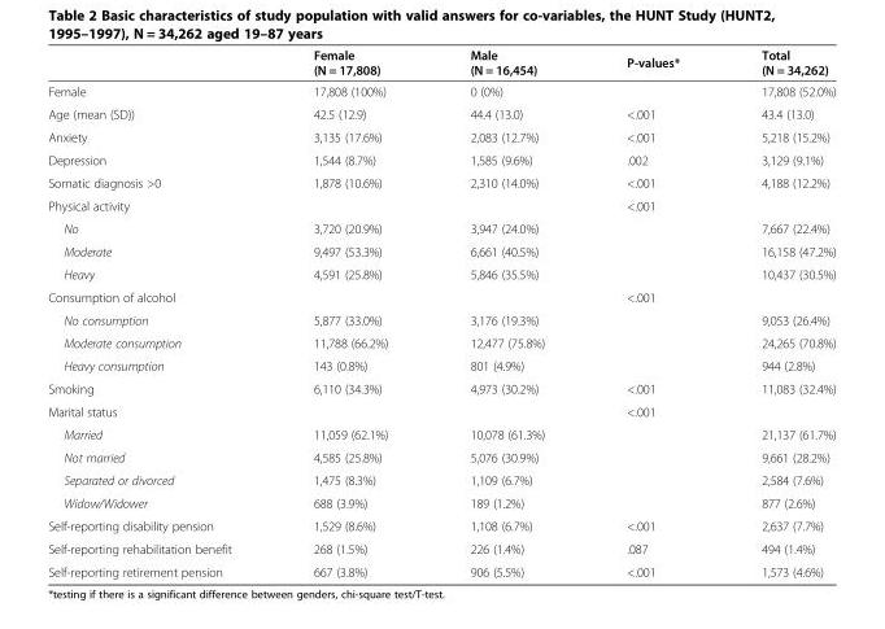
<table><thead><tr><td></td><td>Female (N = 17,808)</td><td>Male (N = 16,454)</td><td>P-values*</td><td>Total (N = 34,262)</td></tr></thead><tbody><tr><td>Female</td><td>17,808 (100%)</td><td>0 (0%)</td><td></td><td>17,808 (52.0%)</td></tr><tr><td>Age (mean (SD))</td><td>42.5 (12.9)</td><td>44.4 (13.0)</td><td>&lt;.001</td><td>43.4 (13.0)</td></tr><tr><td>Anxiety</td><td>3,135 (17.6%)</td><td>2,083 (12.7%)</td><td>&lt;.001</td><td>5,218 (15.2%)</td></tr><tr><td>Depression</td><td>1,544 (8.7%)</td><td>1,585 (9.6%)</td><td>.002</td><td>3,129 (9.1%)</td></tr><tr><td>Somatic diagnosis &gt;0</td><td>1,878 (10.6%)</td><td>2,310 (14.0%)</td><td>&lt;.001</td><td>4,188 (12.2%)</td></tr><tr><td>Physical activity</td><td></td><td></td><td>&lt;.001</td><td></td></tr><tr><td>No</td><td>3,720 (20.9%)</td><td>3,947 (24.0%)</td><td></td><td>7,667 (22.4%)</td></tr><tr><td>Moderate</td><td>9,497 (53.3%)</td><td>6,661 (40.5%)</td><td></td><td>16,158 (47.2%)</td></tr><tr><td>Heavy</td><td>4,591 (25.8%)</td><td>5,846 (35.5%)</td><td></td><td>10,437 (30.5%)</td></tr><tr><td>Consumption of alcohol</td><td></td><td></td><td>&lt;.001</td><td></td></tr><tr><td>No consumption</td><td>5,877 (33.0%)</td><td>3,176 (19.3%)</td><td></td><td>9,053 (26.4%)</td></tr><tr><td>Moderate consumption</td><td>11,788 (66.2%)</td><td>12,477 (75.8%)</td><td></td><td>24,265 (70.8%)</td></tr><tr><td>Heavy consumption</td><td>143 (0.8%)</td><td>801 (4.9%)</td><td></td><td>944 (2.8%)</td></tr><tr><td>Smoking</td><td>6,110 (34.3%)</td><td>4,973 (30.2%)</td><td>&lt;.001</td><td>11,083 (32.4%)</td></tr><tr><td>Marital status</td><td></td><td></td><td>&lt;.001</td><td></td></tr><tr><td>Married</td><td>11,059 (62.1%)</td><td>10,078 (61.3%)</td><td></td><td>21,137 (61.7%)</td></tr><tr><td>Not married</td><td>4,585 (25.8%)</td><td>5,076 (30.9%)</td><td></td><td>9,661 (28.2%)</td></tr><tr><td>Separated or divorced</td><td>1,475 (8.3%)</td><td>1,109 (6.7%)</td><td></td><td>2,584 (7.6%)</td></tr><tr><td>Widow/Widower</td><td>688 (3.9%)</td><td>189 (1.2%)</td><td></td><td>877 (2.6%)</td></tr><tr><td>Self-reporting disability pension</td><td>1,529 (8.6%)</td><td>1,108 (6.7%)</td><td>&lt;.001</td><td>2,637 (7.7%)</td></tr><tr><td>Self-reporting rehabilitation benefit</td><td>268 (1.5%)</td><td>226 (1.4%)</td><td>.087</td><td>494 (1.4%)</td></tr><tr><td>Self-reporting retirement pension</td><td>667 (3.8%)</td><td>906 (5.5%)</td><td>&lt;.001</td><td>1,573 (4.6%)</td></tr></tbody></table>